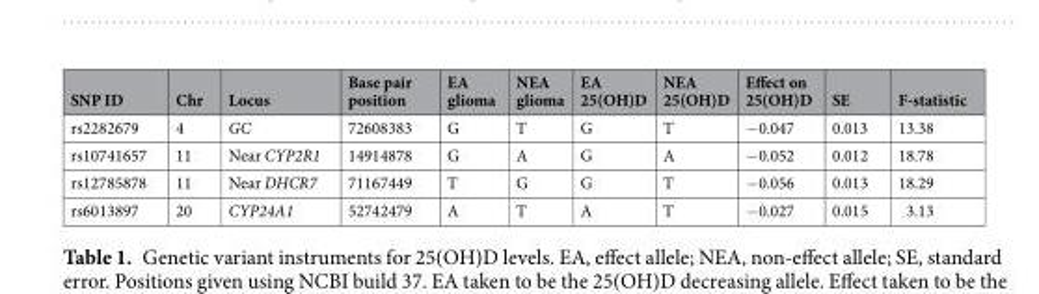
<table><thead><tr><td>SNP ID</td><td>Chr</td><td>Locus</td><td>Base pair position</td><td>EA glioma</td><td>NEA glioma</td><td>EA 25(OH)D</td><td>NEA 25(OH)D</td><td>Effect on 25(OH)D</td><td>SE</td><td>F-statistic</td></tr></thead><tbody><tr><td>rs2282679</td><td>4</td><td>GC</td><td>72608383</td><td>G</td><td>T</td><td>G</td><td>T</td><td>−0.047</td><td>0.013</td><td>13.38</td></tr><tr><td>rs10741657</td><td>11</td><td>Near CYP2R1</td><td>14914878</td><td>G</td><td>A</td><td>G</td><td>A</td><td>−0.052</td><td>0.012</td><td>18.78</td></tr><tr><td>rs12785878</td><td>11</td><td>Near DHCR7</td><td>71167449</td><td>T</td><td>G</td><td>G</td><td>T</td><td>−0.056</td><td>0.013</td><td>18.29</td></tr><tr><td>rs6013897</td><td>20</td><td>CYP24A1</td><td>52742479</td><td>A</td><td>T</td><td>A</td><td>T</td><td>−0.027</td><td>0.015</td><td>3.13</td></tr></tbody></table>